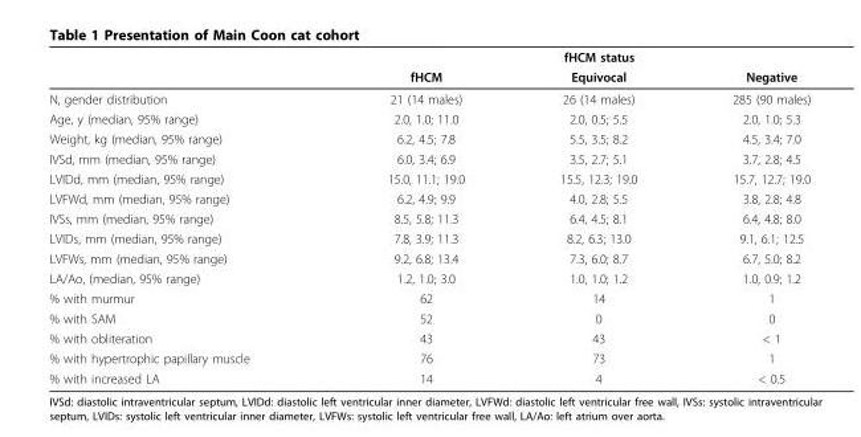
<table><thead><tr><td rowspan="2"></td><td colspan="3">fHCM status</td></tr><tr><td>fHCM</td><td>Equivocal</td><td>Negative</td></tr></thead><tbody><tr><td>N, gender distribution</td><td>21 (14 males)</td><td>26 (14 males)</td><td>285 (90 males)</td></tr><tr><td>Age, y (median, 95% range)</td><td>2.0, 1.0; 11.0</td><td>2.0, 0.5; 5.5</td><td>2.0, 1.0; 5.3</td></tr><tr><td>Weight, kg (median, 95% range)</td><td>6.2, 4.5; 7.8</td><td>5.5, 3.5; 8.2</td><td>4.5, 3.4; 7.0</td></tr><tr><td>IVSd, mm (median, 95% range)</td><td>6.0, 3.4; 6.9</td><td>3.5, 2.7; 5.1</td><td>3.7, 2.8; 4.5</td></tr><tr><td>LVIDd, mm (median, 95% range)</td><td>15.0, 11.1; 19.0</td><td>15.5, 12.3; 19.0</td><td>15.7, 12.7; 19.0</td></tr><tr><td>LVFWd, mm (median, 95% range)</td><td>6.2, 4.9; 9.9</td><td>4.0, 2.8; 5.5</td><td>3.8, 2.8; 4.8</td></tr><tr><td>IVSs, mm (median, 95% range)</td><td>8.5, 5.8; 11.3</td><td>6.4, 4.5; 8.1</td><td>6.4, 4.8; 8.0</td></tr><tr><td>LVIDs, mm (median, 95% range)</td><td>7.8, 3.9; 11.3</td><td>8.2, 6.3; 13.0</td><td>9.1, 6.1; 12.5</td></tr><tr><td>LVFWs, mm (median, 95% range)</td><td>9.2, 6.8; 13.4</td><td>7.3, 6.0; 8.7</td><td>6.7, 5.0; 8.2</td></tr><tr><td>LA/Ao, (median, 95% range)</td><td>1.2, 1.0; 3.0</td><td>1.0, 1.0; 1.2</td><td>1.0, 0.9; 1.2</td></tr><tr><td>% with murmur</td><td>62</td><td>14</td><td>1</td></tr><tr><td>% with SAM</td><td>52</td><td>0</td><td>0</td></tr><tr><td>% with obliteration</td><td>43</td><td>43</td><td>&lt; 1</td></tr><tr><td>% with hypertrophic papillary muscle</td><td>76</td><td>73</td><td>1</td></tr><tr><td>% with increased LA</td><td>14</td><td>4</td><td>&lt; 0.5</td></tr></tbody></table>